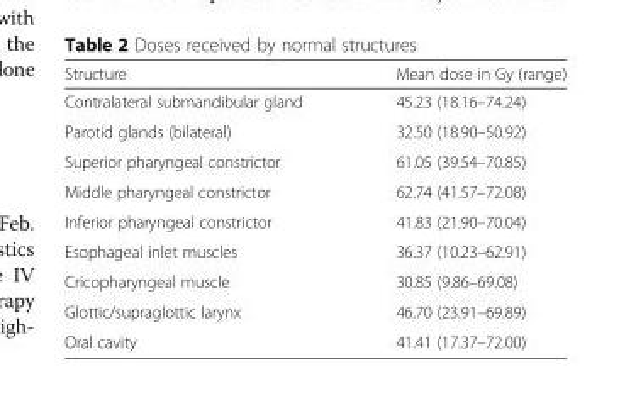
<table><thead><tr><td>Structure</td><td>Mean dose in Gy (range)</td></tr></thead><tbody><tr><td>Contralateral submandibular gland</td><td>45.23 (18.16–74.24)</td></tr><tr><td>Parotid glands (bilateral)</td><td>32.50 (18.90–50.92)</td></tr><tr><td>Superior pharyngeal constrictor</td><td>61.05 (39.54–70.85)</td></tr><tr><td>Middle pharyngeal constrictor</td><td>62.74 (41.57–72.08)</td></tr><tr><td>Inferior pharyngeal constrictor</td><td>41.83 (21.90–70.04)</td></tr><tr><td>Esophageal inlet muscles</td><td>36.37 (10.23–62.91)</td></tr><tr><td>Cricopharyngeal muscle</td><td>30.85 (9.86–69.08)</td></tr><tr><td>Glottic/supraglottic larynx</td><td>46.70 (23.91–69.89)</td></tr><tr><td>Oral cavity</td><td>41.41 (17.37–72.00)</td></tr></tbody></table>